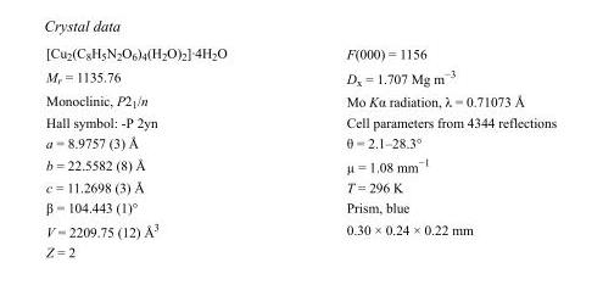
<table><tbody><tr><td>[Cu<sub>2</sub>(C<sub>8</sub>H<sub>5</sub>N<sub>2</sub>O<sub>6</sub>)<sub>4</sub>(H<sub>2</sub>O)<sub>2</sub>]·4H<sub>2</sub>O</td><td>F(000) = 1156</td></tr><tr><td>M<sub>r</sub> = 1135.76</td><td>D<sub>x</sub> = 1.707 Mg m<sup>−3</sup></td></tr><tr><td>Monoclinic, P2<sub>1</sub>/n</td><td>Mo Kα radiation, λ = 0.71073 Å</td></tr><tr><td>Hall symbol: -P 2yn</td><td>Cell parameters from 4344 reflections</td></tr><tr><td>a = 8.9757 (3) Å</td><td>θ = 2.1–28.3°</td></tr><tr><td>b = 22.5582 (8) Å</td><td>µ = 1.08 mm<sup>−1</sup></td></tr><tr><td>c = 11.2698 (3) Å</td><td>T = 296 K</td></tr><tr><td>β = 104.443 (1)°</td><td>Prism, blue</td></tr><tr><td>V = 2209.75 (12) Å<sup>3</sup></td><td>0.30 × 0.24 × 0.22 mm</td></tr><tr><td>Z = 2</td><td></td></tr></tbody></table>